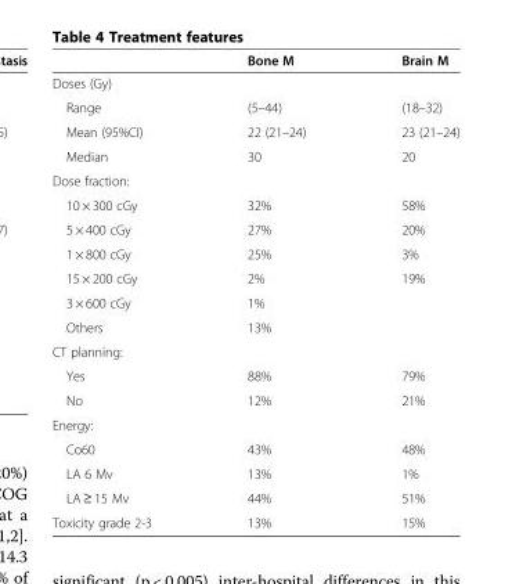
<table><thead><tr><td></td><td>Bone M</td><td>Brain M</td></tr></thead><tbody><tr><td colspan="3">Doses (Gy)</td></tr><tr><td>Range</td><td>(5–44)</td><td>(18–32)</td></tr><tr><td>Mean (95%CI)</td><td>22 (21–24)</td><td>23 (21–24)</td></tr><tr><td>Median</td><td>30</td><td>20</td></tr><tr><td colspan="3">Dose fraction:</td></tr><tr><td>10 × 300 cGy</td><td>32%</td><td>58%</td></tr><tr><td>5 × 400 cGy</td><td>27%</td><td>20%</td></tr><tr><td>1 × 800 cGy</td><td>25%</td><td>3%</td></tr><tr><td>15 × 200 cGy</td><td>2%</td><td>19%</td></tr><tr><td>3 × 600 cGy</td><td>1%</td><td></td></tr><tr><td>Others</td><td>13%</td><td></td></tr><tr><td colspan="3">CT planning:</td></tr><tr><td>Yes</td><td>88%</td><td>79%</td></tr><tr><td>No</td><td>12%</td><td>21%</td></tr><tr><td colspan="3">Energy:</td></tr><tr><td>Co60</td><td>43%</td><td>48%</td></tr><tr><td>LA 6 Mv</td><td>13%</td><td>1%</td></tr><tr><td>LA ≥ 15 Mv</td><td>44%</td><td>51%</td></tr><tr><td>Toxicity grade 2-3</td><td>13%</td><td>15%</td></tr></tbody></table>